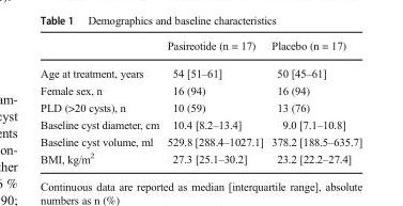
<table><thead><tr><td></td><td>Pasireotide (n = 17)</td><td>Placebo (n = 17)</td></tr></thead><tbody><tr><td>Age at treatment, years</td><td>54 [51–61]</td><td>50 [45–61]</td></tr><tr><td>Female sex, n</td><td>16 (94)</td><td>16 (94)</td></tr><tr><td>PLD (&gt;20 cysts), n</td><td>10 (59)</td><td>13 (76)</td></tr><tr><td>Baseline cyst diameter, cm</td><td>10.4 [8.2–13.4]</td><td>9.0 [7.1–10.8]</td></tr><tr><td>Baseline cyst volume, ml</td><td>529.8 [288.4–1027.1]</td><td>378.2 [188.5–635.7]</td></tr><tr><td>BMI, kg/m<sup>2</sup></td><td>27.3 [25.1–30.2]</td><td>23.2 [22.2–27.4]</td></tr></tbody></table>